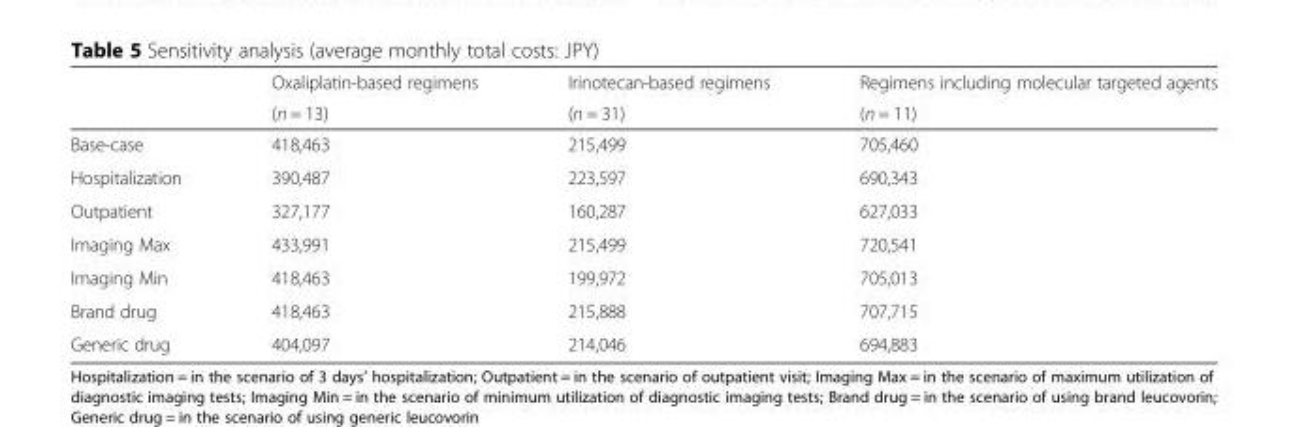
<table><thead><tr><td rowspan="2"></td><td rowspan="2">Oxaliplatin-based regimens (n = 13)</td><td rowspan="2">Irinotecan-based regimens (n = 31)</td><td rowspan="2">Regimens including molecular targeted agents (n = 11)</td></tr><tr></tr></thead><tbody><tr><td>Base-case</td><td>418,463</td><td>215,499</td><td>705,460</td></tr><tr><td>Hospitalization</td><td>390,487</td><td>223,597</td><td>690,343</td></tr><tr><td>Outpatient</td><td>327,177</td><td>160,287</td><td>627,033</td></tr><tr><td>Imaging Max</td><td>433,991</td><td>215,499</td><td>720,541</td></tr><tr><td>Imaging Min</td><td>418,463</td><td>199,972</td><td>705,013</td></tr><tr><td>Brand drug</td><td>418,463</td><td>215,888</td><td>707,715</td></tr><tr><td>Generic drug</td><td>404,097</td><td>214,046</td><td>694,883</td></tr></tbody></table>